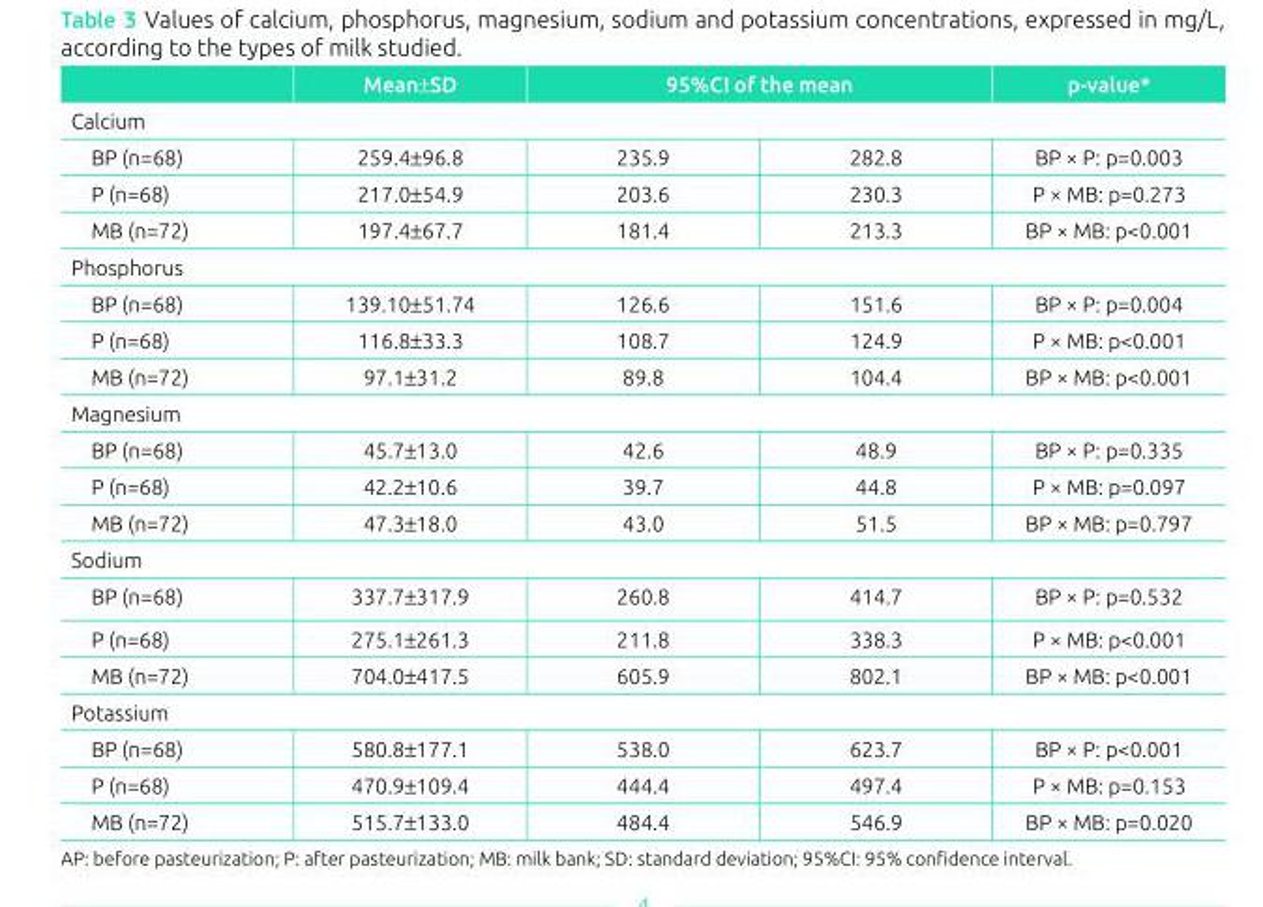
<table><thead><tr><td></td><td>Mean±SD</td><td colspan="2">95%CI of the mean</td><td>p-value*</td></tr><tr><td colspan="5">Calcium</td></tr><tr><td>BP (n=68)</td><td>259.4±96.8</td><td>235.9</td><td>282.8</td><td>BP × P: p=0.003</td></tr></thead><tbody><tr><td>P (n=68)</td><td>217.0±54.9</td><td>203.6</td><td>230.3</td><td>P × MB: p=0.273</td></tr><tr><td>MB (n=72)</td><td>197.4±67.7</td><td>181.4</td><td>213.3</td><td>BP × MB: p&lt;0.001</td></tr><tr><td colspan="5">Phosphorus</td></tr><tr><td>BP (n=68)</td><td>139.10±51.74</td><td>126.6</td><td>151.6</td><td>BP × P: p=0.004</td></tr><tr><td>P (n=68)</td><td>116.8±33.3</td><td>108.7</td><td>124.9</td><td>P × MB: p&lt;0.001</td></tr><tr><td>MB (n=72)</td><td>97.1±31.2</td><td>89.8</td><td>104.4</td><td>BP × MB: p&lt;0.001</td></tr><tr><td colspan="5">Magnesium</td></tr><tr><td>BP (n=68)</td><td>45.7±13.0</td><td>42.6</td><td>48.9</td><td>BP × P: p=0.335</td></tr><tr><td>P (n=68)</td><td>42.2±10.6</td><td>39.7</td><td>44.8</td><td>P × MB: p=0.097</td></tr><tr><td>MB (n=72)</td><td>47.3±18.0</td><td>43.0</td><td>51.5</td><td>BP × MB: p=0.797</td></tr><tr><td colspan="5">Sodium</td></tr><tr><td>BP (n=68)</td><td>337.7±317.9</td><td>260.8</td><td>414.7</td><td>BP × P: p=0.532</td></tr><tr><td>P (n=68)</td><td>275.1±261.3</td><td>211.8</td><td>338.3</td><td>P × MB: p&lt;0.001</td></tr><tr><td>MB (n=72)</td><td>704.0±417.5</td><td>605.9</td><td>802.1</td><td>BP × MB: p&lt;0.001</td></tr><tr><td colspan="5">Potassium</td></tr><tr><td>BP (n=68)</td><td>580.8±177.1</td><td>538.0</td><td>623.7</td><td>BP × P: p&lt;0.001</td></tr><tr><td>P (n=68)</td><td>470.9±109.4</td><td>444.4</td><td>497.4</td><td>P × MB: p=0.153</td></tr><tr><td>MB (n=72)</td><td>515.7±133.0</td><td>484.4</td><td>546.9</td><td>BP × MB: p=0.020</td></tr></tbody></table>